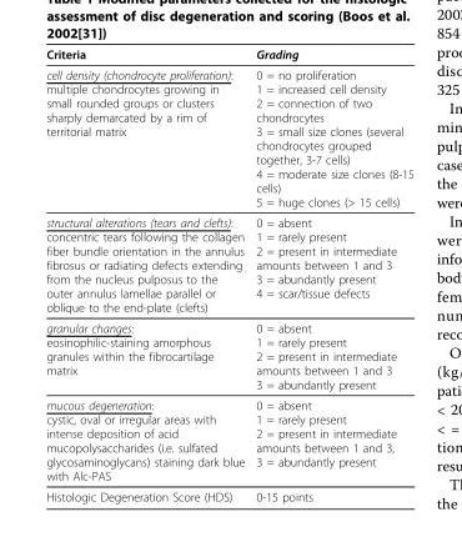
<table><thead><tr><td>Criteria</td><td>Grading</td></tr></thead><tbody><tr><td>cell density (chondrocyte proliferation): multiple chondrocytes growing in small rounded groups or clusters sharply demarcated by a rim of territorial matrix</td><td>0 = no proliferation 1 = increased cell density 2 = connection of two chondrocytes 3 = small size clones (several chondrocytes grouped together, 3-7 cells) 4 = moderate size clones (8-15 cells) 5 = huge clones (&gt; 15 cells)</td></tr><tr><td>structural alterations (tears and clefts): concentric tears following the collagen fiber bundle orientation in the annulus fibrosus or radiating defects extending from the nucleus pulposus to the outer annulus lamellae parallel or oblique to the end-plate (clefts)</td><td>0 = absent 1 = rarely present 2 = present in intermediate amounts between 1 and 3 3 = abundantly present 4 = scar/tissue defects</td></tr><tr><td>granular changes: eosinophilic-staining amorphous granules within the fibrocartilage matrix</td><td>0 = absent 1 = rarely present 2 = present in intermediate amounts between 1 and 3 3 = abundantly present</td></tr><tr><td>mucous degeneration: cystic, oval or irregular areas with intense deposition of acid mucopolysaccharides (i.e. sulfated glycosaminoglycans) staining dark blue with Alc-PAS</td><td>0 = absent 1 = rarely present 2 = present in intermediate amounts between 1 and 3, 3 = abundantly present</td></tr><tr><td>Histologic Degeneration Score (HDS)</td><td>0-15 points</td></tr></tbody></table>